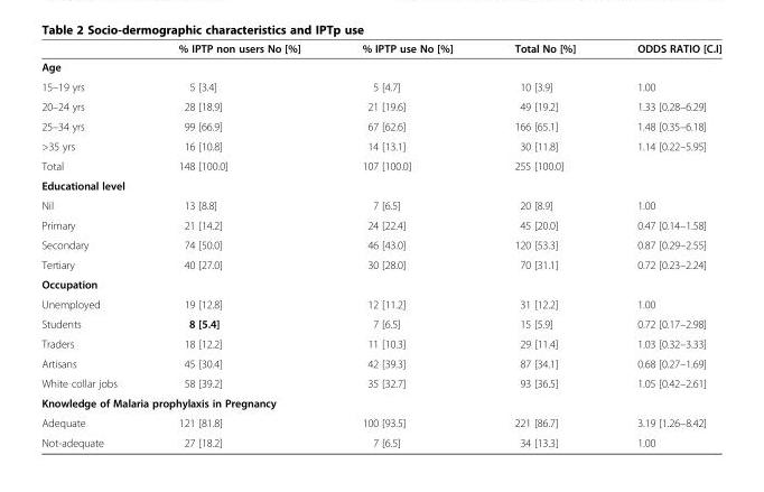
<table><thead><tr><td></td><td>% IPTP non users No [%]</td><td>% IPTP use No [%]</td><td>Total No [%]</td><td>ODDS RATIO [C.I]</td></tr></thead><tbody><tr><td colspan="5">Age</td></tr><tr><td>15–19 yrs</td><td>5 [3.4]</td><td>5 [4.7]</td><td>10 [3.9]</td><td>1.00</td></tr><tr><td>20–24 yrs</td><td>28 [18.9]</td><td>21 [19.6]</td><td>49 [19.2]</td><td>1.33 [0.28–6.29]</td></tr><tr><td>25–34 yrs</td><td>99 [66.9]</td><td>67 [62.6]</td><td>166 [65.1]</td><td>1.48 [0.35–6.18]</td></tr><tr><td>&gt;35 yrs</td><td>16 [10.8]</td><td>14 [13.1]</td><td>30 [11.8]</td><td>1.14 [0.22–5.95]</td></tr><tr><td>Total</td><td>148 [100.0]</td><td>107 [100.0]</td><td>255 [100.0]</td><td></td></tr><tr><td colspan="5">Educational level</td></tr><tr><td>Nil</td><td>13 [8.8]</td><td>7 [6.5]</td><td>20 [8.9]</td><td>1.00</td></tr><tr><td>Primary</td><td>21 [14.2]</td><td>24 [22.4]</td><td>45 [20.0]</td><td>0.47 [0.14–1.58]</td></tr><tr><td>Secondary</td><td>74 [50.0]</td><td>46 [43.0]</td><td>120 [53.3]</td><td>0.87 [0.29–2.55]</td></tr><tr><td>Tertiary</td><td>40 [27.0]</td><td>30 [28.0]</td><td>70 [31.1]</td><td>0.72 [0.23–2.24]</td></tr><tr><td colspan="5">Occupation</td></tr><tr><td>Unemployed</td><td>19 [12.8]</td><td>12 [11.2]</td><td>31 [12.2]</td><td>1.00</td></tr><tr><td>Students</td><td>8 [5.4]</td><td>7 [6.5]</td><td>15 [5.9]</td><td>0.72 [0.17–2.98]</td></tr><tr><td>Traders</td><td>18 [12.2]</td><td>11 [10.3]</td><td>29 [11.4]</td><td>1.03 [0.32–3.33]</td></tr><tr><td>Artisans</td><td>45 [30.4]</td><td>42 [39.3]</td><td>87 [34.1]</td><td>0.68 [0.27–1.69]</td></tr><tr><td>White collar jobs</td><td>58 [39.2]</td><td>35 [32.7]</td><td>93 [36.5]</td><td>1.05 [0.42–2.61]</td></tr><tr><td colspan="5">Knowledge of Malaria prophylaxis in Pregnancy</td></tr><tr><td>Adequate</td><td>121 [81.8]</td><td>100 [93.5]</td><td>221 [86.7]</td><td>3.19 [1.26–8.42]</td></tr><tr><td>Not-adequate</td><td>27 [18.2]</td><td>7 [6.5]</td><td>34 [13.3]</td><td>1.00</td></tr></tbody></table>